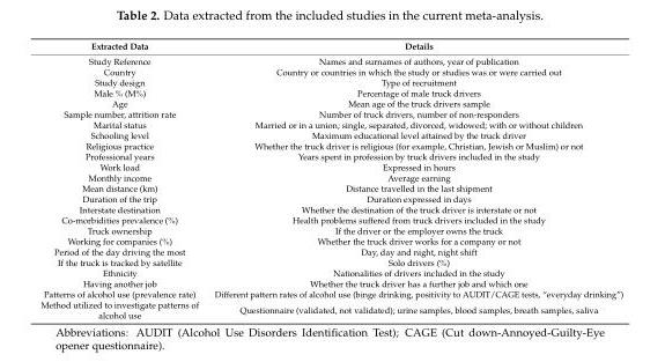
<table><thead><tr><td>Extracted Data</td><td>Details</td></tr></thead><tbody><tr><td>Study Reference</td><td>Names and surnames of authors, year of publication</td></tr><tr><td>Country</td><td>Country or countries in which the study or studies was or were carried out</td></tr><tr><td>Study design</td><td>Type of recruitment</td></tr><tr><td>Male % (M%)</td><td>Percentage of male truck drivers</td></tr><tr><td>Age</td><td>Mean age of the truck drivers sample</td></tr><tr><td>Sample number, attrition rate</td><td>Number of truck drivers, number of non-responders</td></tr><tr><td>Marital status</td><td>Married or in a union; single, separated, divorced, widowed; with or without children</td></tr><tr><td>Schooling level</td><td>Maximum educational level attained by the truck driver</td></tr><tr><td>Religious practice</td><td>Whether the truck driver is religious (for example, Christian, Jewish or Muslim) or not</td></tr><tr><td>Professional years</td><td>Years spent in profession by truck drivers included in the study</td></tr><tr><td>Work load</td><td>Expressed in hours</td></tr><tr><td>Monthly income</td><td>Average earning</td></tr><tr><td>Mean distance (km)</td><td>Distance travelled in the last shipment</td></tr><tr><td>Duration of the trip</td><td>Duration expressed in days</td></tr><tr><td>Interstate destination</td><td>Whether the destination of the truck driver is interstate or not</td></tr><tr><td>Co-morbidities prevalence (%)</td><td>Health problems suffered from truck drivers included in the study</td></tr><tr><td>Truck ownership</td><td>If the driver or the employer owns the truck</td></tr><tr><td>Working for companies (%)</td><td>Whether the truck driver works for a company or not</td></tr><tr><td>Period of the day driving the most</td><td>Day, day and night, night shift</td></tr><tr><td>If the truck is tracked by satellite</td><td>Solo drivers (%)</td></tr><tr><td>Ethnicity</td><td>Nationalities of drivers included in the study</td></tr><tr><td>Having another job</td><td>Whether the truck driver has a further job and which one</td></tr><tr><td>Patterns of alcohol use (prevalence rate)</td><td>Different pattern rates of alcohol use (binge drinking, positivity to AUDIT/CAGE tests, “everyday drinking”)</td></tr><tr><td>Method utilized to investigate patterns of alcohol use</td><td>Questionnaire (validated, not validated); urine samples, blood samples, breath samples, saliva</td></tr></tbody></table>